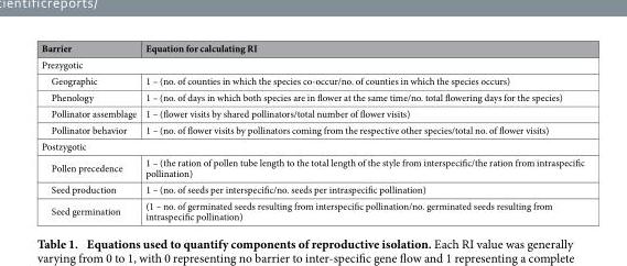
<table><thead><tr><td>Barrier</td><td>Equation for calculating RI</td></tr></thead><tbody><tr><td colspan="2">Prezygotic</td></tr><tr><td>Geographic</td><td>1 – (no. of counties in which the species co-occur/no. of counties in which the species occurs)</td></tr><tr><td>Phenology</td><td>1 – (no. of days in which both species are in flower at the same time/no. total flowering days for the species)</td></tr><tr><td>Pollinator assemblage</td><td>1 – (flower visits by shared pollinators/total number of flower visits)</td></tr><tr><td>Pollinator behavior</td><td>1 – (no. of flower visits by pollinators coming from the respective other species/total no. of flower visits)</td></tr><tr><td colspan="2">Postzygotic</td></tr><tr><td>Pollen precedence</td><td>1 – (the ration of pollen tube length to the total length of the style from interspecific/the ration from intraspecific pollination)</td></tr><tr><td>Seed production</td><td>1 – (no. of seeds per interspecific/no. seeds per intraspecific pollination)</td></tr><tr><td>Seed germination</td><td>(1 – no. of germinated seeds resulting from interspecific pollination/no. germinated seeds resulting from intraspecific pollination)</td></tr></tbody></table>